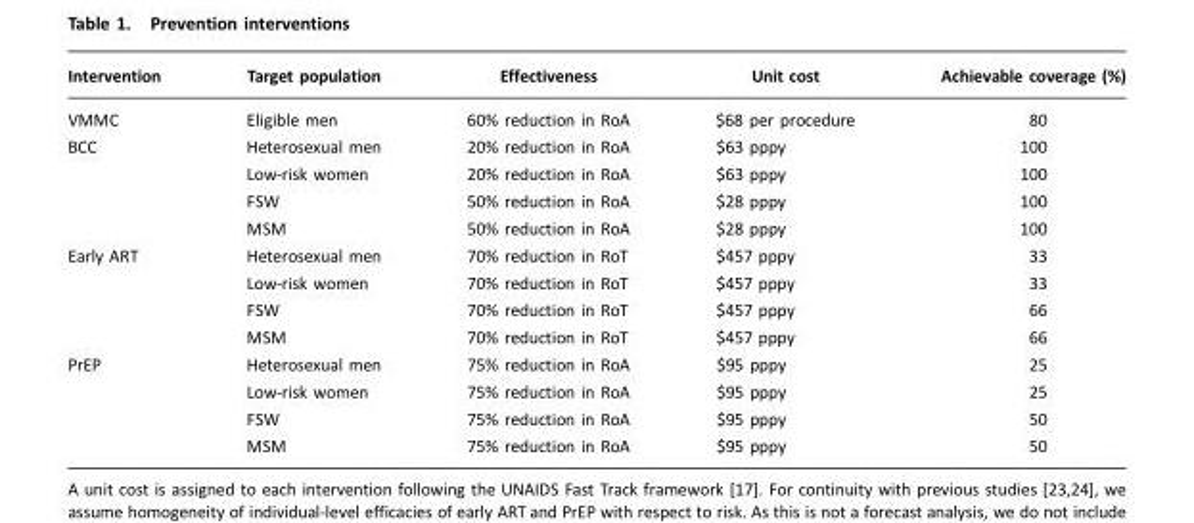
<table><thead><tr><td>Intervention</td><td>Target population</td><td>Effectiveness</td><td>Unit cost</td><td>Achievable coverage (%)</td></tr></thead><tbody><tr><td>VMMC</td><td>Eligible men</td><td>60% reduction in RoA</td><td>$68 per procedure</td><td>80</td></tr><tr><td rowspan="4">BCC</td><td>Heterosexual men</td><td>20% reduction in RoA</td><td>$63 pppy</td><td>100</td></tr><tr><td>Low-risk women</td><td>20% reduction in RoA</td><td>$63 pppy</td><td>100</td></tr><tr><td>FSW</td><td>50% reduction in RoA</td><td>$28 pppy</td><td>100</td></tr><tr><td>MSM</td><td>50% reduction in RoA</td><td>$28 pppy</td><td>100</td></tr><tr><td rowspan="4">Early ART</td><td>Heterosexual men</td><td>70% reduction in RoT</td><td>$457 pppy</td><td>33</td></tr><tr><td>Low-risk women</td><td>70% reduction in RoT</td><td>$457 pppy</td><td>33</td></tr><tr><td>FSW</td><td>70% reduction in RoT</td><td>$457 pppy</td><td>66</td></tr><tr><td>MSM</td><td>70% reduction in RoT</td><td>$457 pppy</td><td>66</td></tr><tr><td rowspan="4">PrEP</td><td>Heterosexual men</td><td>75% reduction in RoA</td><td>$95 pppy</td><td>25</td></tr><tr><td>Low-risk women</td><td>75% reduction in RoA</td><td>$95 pppy</td><td>25</td></tr><tr><td>FSW</td><td>75% reduction in RoA</td><td>$95 pppy</td><td>50</td></tr><tr><td>MSM</td><td>75% reduction in RoA</td><td>$95 pppy</td><td>50</td></tr></tbody></table>